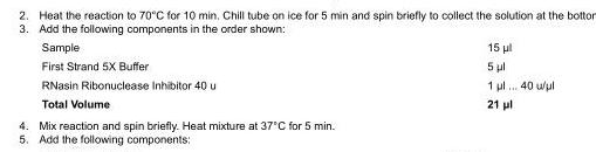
<table><tbody><tr><td>Sample</td><td>15 μl</td></tr><tr><td>First Strand 5X Buffer</td><td>5 μl</td></tr><tr><td>RNasin Ribonuclease Inhibitor 40 u</td><td>1 μl ... 40 u/μl</td></tr><tr><td>Total Volume</td><td>21 μl</td></tr></tbody></table>